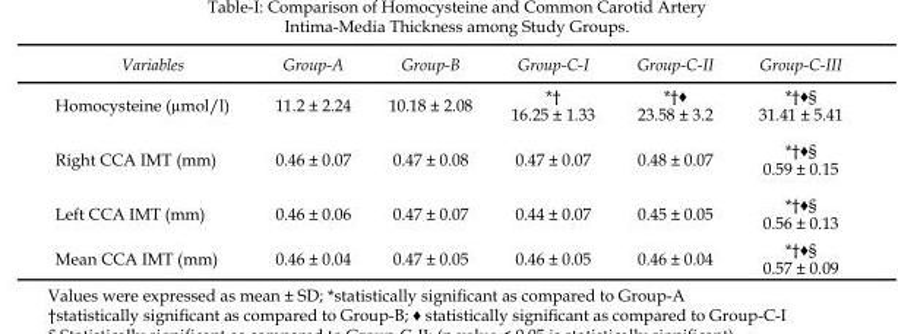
<table><thead><tr><td>Variables</td><td>Group-A</td><td>Group-B</td><td>Group-C-I</td><td>Group-C-II</td><td>Group-C-III</td></tr></thead><tbody><tr><td>Homocysteine (µmol/l)</td><td>11.2 ± 2.24</td><td>10.18 ± 2.08</td><td>*† 16.25 ± 1.33</td><td>*†♦ 23.58 ± 3.2</td><td>*†♦§ 31.41 ± 5.41</td></tr><tr><td>Right CCA IMT (mm)</td><td>0.46 ± 0.07</td><td>0.47 ± 0.08</td><td>0.47 ± 0.07</td><td>0.48 ± 0.07</td><td>*†♦§ 0.59 ± 0.15</td></tr><tr><td>Left CCA IMT (mm)</td><td>0.46 ± 0.06</td><td>0.47 ± 0.07</td><td>0.44 ± 0.07</td><td>0.45 ± 0.05</td><td>*†♦§ 0.56 ± 0.13</td></tr><tr><td>Mean CCA IMT (mm)</td><td>0.46 ± 0.04</td><td>0.47 ± 0.05</td><td>0.46 ± 0.05</td><td>0.46 ± 0.04</td><td>*†♦§ 0.57 ± 0.09</td></tr></tbody></table>